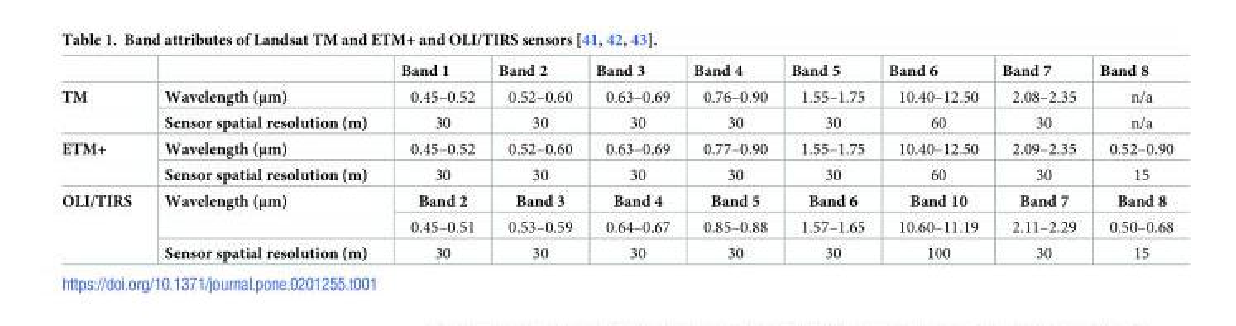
<table><thead><tr><td></td><td></td><td>Band 1</td><td>Band 2</td><td>Band 3</td><td>Band 4</td><td>Band 5</td><td>Band 6</td><td>Band 7</td><td>Band 8</td></tr></thead><tbody><tr><td rowspan="2">TM</td><td>Wavelength (μm)</td><td>0.45–0.52</td><td>0.52–0.60</td><td>0.63–0.69</td><td>0.76–0.90</td><td>1.55–1.75</td><td>10.40–12.50</td><td>2.08–2.35</td><td>n/a</td></tr><tr><td>Sensor spatial resolution (m)</td><td>30</td><td>30</td><td>30</td><td>30</td><td>30</td><td>60</td><td>30</td><td>n/a</td></tr><tr><td rowspan="2">ETM+</td><td>Wavelength (μm)</td><td>0.45–0.52</td><td>0.52–0.60</td><td>0.63–0.69</td><td>0.77–0.90</td><td>1.55–1.75</td><td>10.40–12.50</td><td>2.09–2.35</td><td>0.52–0.90</td></tr><tr><td>Sensor spatial resolution (m)</td><td>30</td><td>30</td><td>30</td><td>30</td><td>30</td><td>60</td><td>30</td><td>15</td></tr><tr><td rowspan="3">OLI/TIRS</td><td rowspan="2">Wavelength (μm)</td><td>Band 2</td><td>Band 3</td><td>Band 4</td><td>Band 5</td><td>Band 6</td><td>Band 10</td><td>Band 7</td><td>Band 8</td></tr><tr><td>0.45–0.51</td><td>0.53–0.59</td><td>0.64–0.67</td><td>0.85–0.88</td><td>1.57–1.65</td><td>10.60–11.19</td><td>2.11–2.29</td><td>0.50–0.68</td></tr><tr><td>Sensor spatial resolution (m)</td><td>30</td><td>30</td><td>30</td><td>30</td><td>30</td><td>100</td><td>30</td><td>15</td></tr></tbody></table>